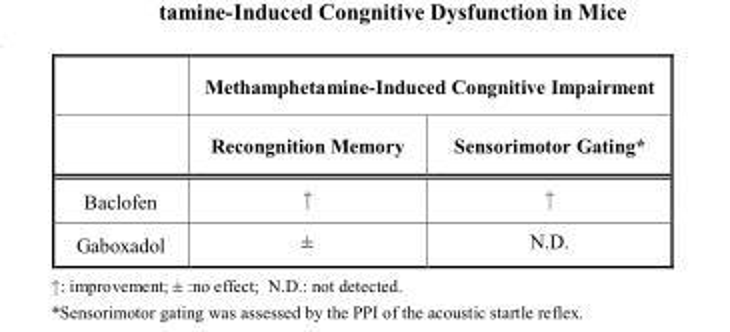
<table><thead><tr><td rowspan="2"></td><td colspan="2">Methamphetamine-Induced Congnitive Impairment</td></tr><tr><td>Recongnition Memory</td><td>Sensorimotor Gating*</td></tr></thead><tbody><tr><td>Baclofen</td><td></td><td></td></tr><tr><td>Gaboxadol</td><td></td><td>N.D.</td></tr></tbody></table>